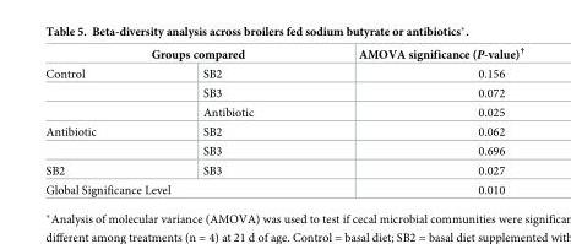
<table><thead><tr><td colspan="2">Groups compared</td><td rowspan="2">AMOVA significance (P-value)<sup>†</sup> 0.156</td></tr><tr><td>Control</td><td>SB2</td></tr></thead><tbody><tr><td></td><td>SB3</td><td>0.072</td></tr><tr><td></td><td>Antibiotic</td><td>0.025</td></tr><tr><td rowspan="2">Antibiotic</td><td>SB2</td><td>0.062</td></tr><tr><td>SB3</td><td>0.696</td></tr><tr><td>SB2</td><td>SB3</td><td>0.027</td></tr><tr><td colspan="2">Global Significance Level</td><td>0.010</td></tr></tbody></table>